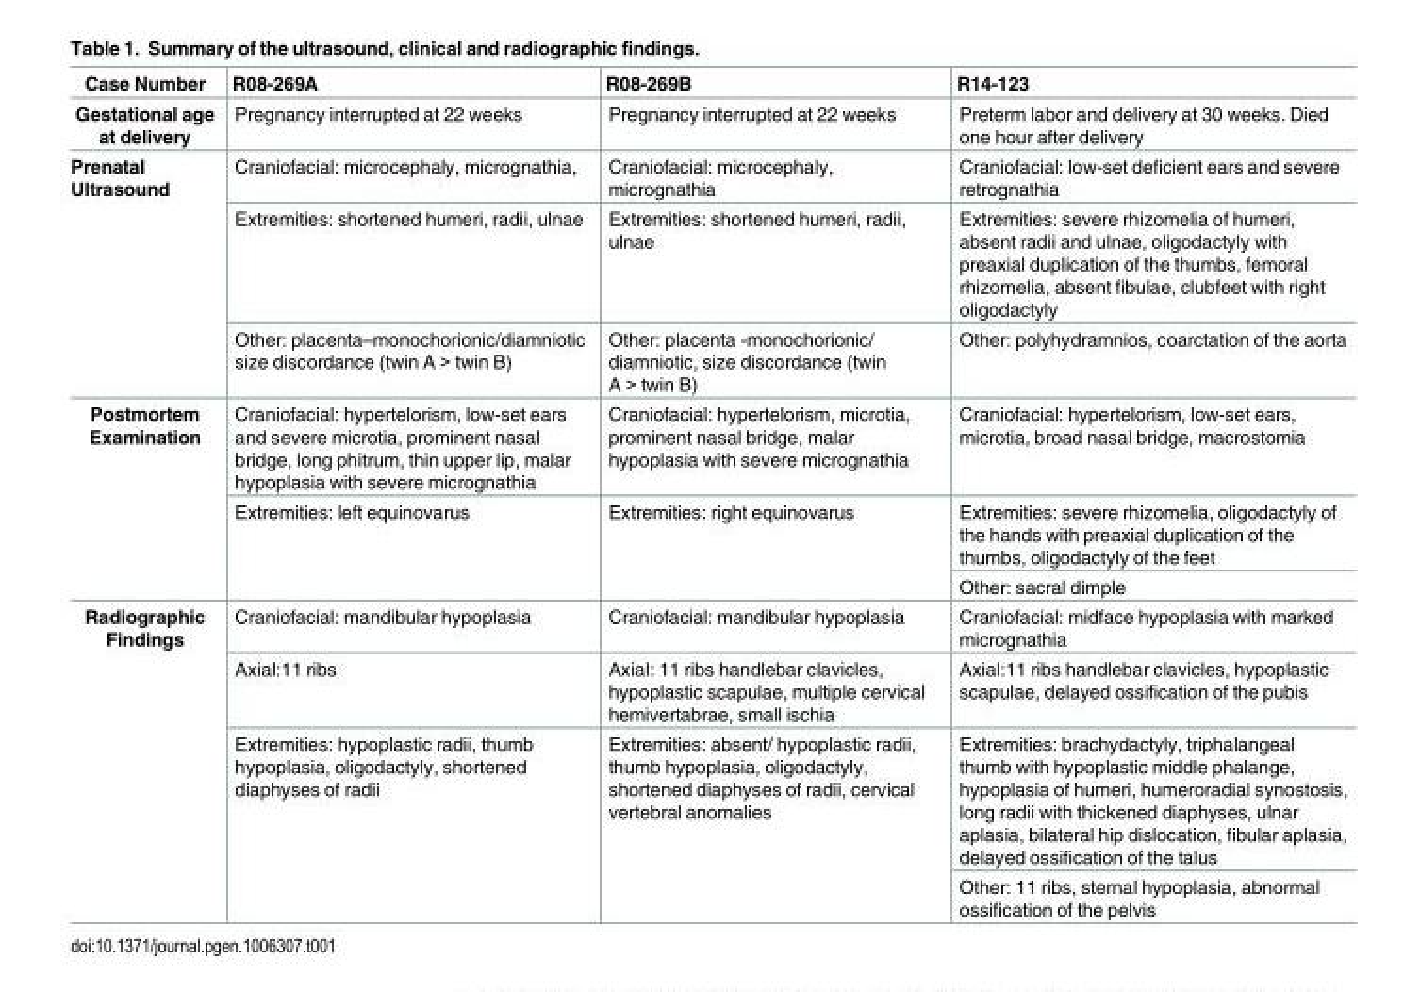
<table><thead><tr><td>Case Number</td><td>R08-269A</td><td>R08-269B</td><td>R14-123</td></tr></thead><tbody><tr><td>Gestational age at delivery</td><td>Pregnancy interrupted at 22 weeks</td><td>Pregnancy interrupted at 22 weeks</td><td>Preterm labor and delivery at 30 weeks. Died one hour after delivery</td></tr><tr><td rowspan="3">Prenatal Ultrasound</td><td>Craniofacial: microcephaly, micrognathia,</td><td>Craniofacial: microcephaly, micrognathia</td><td>Craniofacial: low-set deficient ears and severe retrognathia</td></tr><tr><td>Extremities: shortened humeri, radii, ulnae</td><td>Extremities: shortened humeri, radii, ulnae</td><td>Extremities: severe rhizomelia of humeri, absent radii and ulnae, oligodactyly with preaxial duplication of the thumbs, femoral rhizomelia, absent fibulae, clubfeet with right oligodactyly</td></tr><tr><td>Other: placenta–monochorionic/diamniotic size discordance (twin A &gt; twin B)</td><td>Other: placenta -monochorionic/ diamniotic, size discordance (twin A &gt; twin B)</td><td>Other: polyhydramnios, coarctation of the aorta</td></tr><tr><td rowspan="3">Postmortem Examination</td><td>Craniofacial: hypertelorism, low-set ears and severe microtia, prominent nasal bridge, long phitrum, thin upper lip, malar hypoplasia with severe micrognathia</td><td>Craniofacial: hypertelorism, microtia, prominent nasal bridge, malar hypoplasia with severe micrognathia</td><td>Craniofacial: hypertelorism, low-set ears, microtia, broad nasal bridge, macrostomia</td></tr><tr><td rowspan="2">Extremities: left equinovarus</td><td rowspan="2">Extremities: right equinovarus</td><td>Extremities: severe rhizomelia, oligodactyly of the hands with preaxial duplication of the thumbs, oligodactyly of the feet</td></tr><tr><td>Other: sacral dimple</td></tr><tr><td rowspan="4">Radiographic Findings</td><td>Craniofacial: mandibular hypoplasia</td><td>Craniofacial: mandibular hypoplasia</td><td>Craniofacial: midface hypoplasia with marked micrognathia</td></tr><tr><td>Axial:11 ribs</td><td>Axial: 11 ribs handlebar clavicles, hypoplastic scapulae, multiple cervical hemivertabrae, small ischia</td><td>Axial:11 ribs handlebar clavicles, hypoplastic scapulae, delayed ossification of the pubis</td></tr><tr><td rowspan="2">Extremities: hypoplastic radii, thumb hypoplasia, oligodactyly, shortened diaphyses of radii</td><td rowspan="2">Extremities: absent/ hypoplastic radii, thumb hypoplasia, oligodactyly, shortened diaphyses of radii, cervical vertebral anomalies</td><td>Extremities: brachydactyly, triphalangeal thumb with hypoplastic middle phalange, hypoplasia of humeri, humeroradial synostosis, long radii with thickened diaphyses, ulnar aplasia, bilateral hip dislocation, fibular aplasia, delayed ossification of the talus</td></tr><tr><td>Other: 11 ribs, sternal hypoplasia, abnormal ossification of the pelvis</td></tr></tbody></table>